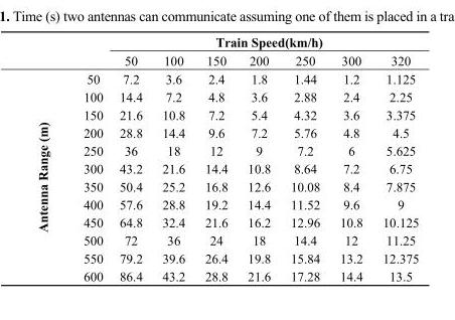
<table><thead><tr><td rowspan="2"></td><td rowspan="2"></td><td colspan="7">Train Speed(km/h)</td></tr><tr><td>50</td><td>100</td><td>150</td><td>200</td><td>250</td><td>300</td><td>320</td></tr></thead><tbody><tr><td rowspan="12">Antenna Range (m)</td><td>50</td><td>7.2</td><td>3.6</td><td>2.4</td><td>1.8</td><td>1.44</td><td>1.2</td><td>1.125</td></tr><tr><td>100</td><td>14.4</td><td>7.2</td><td>4.8</td><td>3.6</td><td>2.88</td><td>2.4</td><td>2.25</td></tr><tr><td>150</td><td>21.6</td><td>10.8</td><td>7.2</td><td>5.4</td><td>4.32</td><td>3.6</td><td>3.375</td></tr><tr><td>200</td><td>28.8</td><td>14.4</td><td>9.6</td><td>7.2</td><td>5.76</td><td>4.8</td><td>4.5</td></tr><tr><td>250</td><td>36</td><td>18</td><td>12</td><td>9</td><td>7.2</td><td>6</td><td>5.625</td></tr><tr><td>300</td><td>43.2</td><td>21.6</td><td>14.4</td><td>10.8</td><td>8.64</td><td>7.2</td><td>6.75</td></tr><tr><td>350</td><td>50.4</td><td>25.2</td><td>16.8</td><td>12.6</td><td>10.08</td><td>8.4</td><td>7.875</td></tr><tr><td>400</td><td>57.6</td><td>28.8</td><td>19.2</td><td>14.4</td><td>11.52</td><td>9.6</td><td>9</td></tr><tr><td>450</td><td>64.8</td><td>32.4</td><td>21.6</td><td>16.2</td><td>12.96</td><td>10.8</td><td>10.125</td></tr><tr><td>500</td><td>72</td><td>36</td><td>24</td><td>18</td><td>14.4</td><td>12</td><td>11.25</td></tr><tr><td>550</td><td>79.2</td><td>39.6</td><td>26.4</td><td>19.8</td><td>15.84</td><td>13.2</td><td>12.375</td></tr><tr><td>600</td><td>86.4</td><td>43.2</td><td>28.8</td><td>21.6</td><td>17.28</td><td>14.4</td><td>13.5</td></tr></tbody></table>